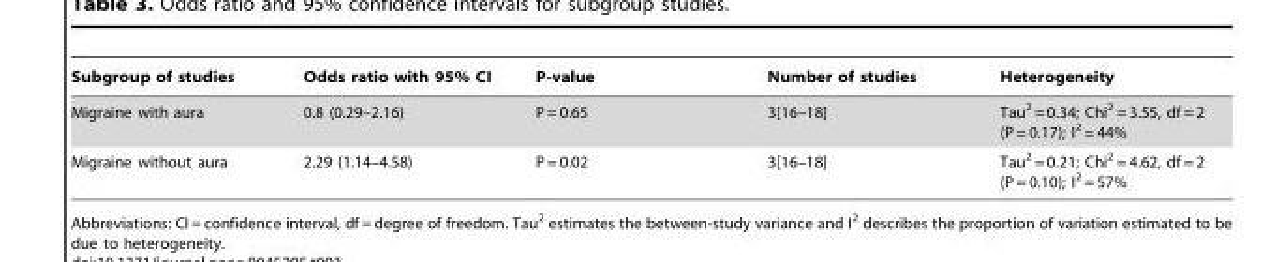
<table><thead><tr><td>Subgroup of studies</td><td>Odds ratio with 95% CI</td><td>P-value</td><td>Number of studies</td><td>Heterogeneity</td></tr></thead><tbody><tr><td>Migraine with aura</td><td>0.8 (0.29–2.16)</td><td>P = 0.65</td><td>3[16–18]</td><td>Tau<sup>2</sup> = 0.34; Chi<sup>2</sup> = 3.55, df = 2 (P = 0.17); I<sup>2</sup> = 44%</td></tr><tr><td>Migraine without aura</td><td>2.29 (1.14–4.58)</td><td>P = 0.02</td><td>3[16–18]</td><td>Tau<sup>2</sup> = 0.21; Chi<sup>2</sup> = 4.62, df = 2 (P = 0.10); I<sup>2</sup> = 57%</td></tr></tbody></table>